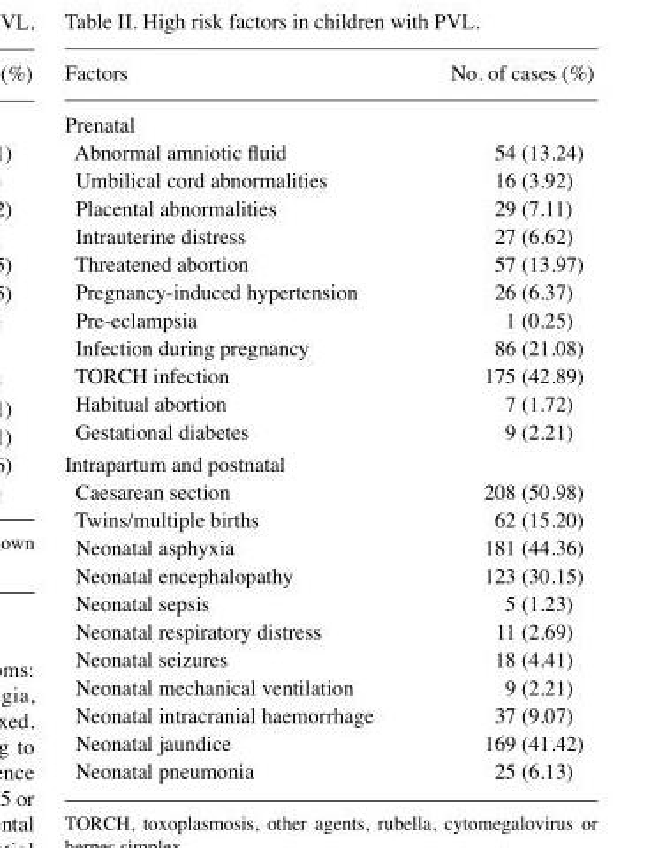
<table><thead><tr><td>Factors</td><td>No. of cases (%)</td></tr></thead><tbody><tr><td colspan="2">Prenatal</td></tr><tr><td>Abnormal amniotic fluid</td><td>54 (13.24)</td></tr><tr><td>Umbilical cord abnormalities</td><td>16 (3.92)</td></tr><tr><td>Placental abnormalities</td><td>29 (7.11)</td></tr><tr><td>Intrauterine distress</td><td>27 (6.62)</td></tr><tr><td>Threatened abortion</td><td>57 (13.97)</td></tr><tr><td>Pregnancy‑induced hypertension</td><td>26 (6.37)</td></tr><tr><td>Pre-eclampsia</td><td>1 (0.25)</td></tr><tr><td>Infection during pregnancy</td><td>86 (21.08)</td></tr><tr><td>TORCH infection</td><td>175 (42.89)</td></tr><tr><td>Habitual abortion</td><td>7 (1.72)</td></tr><tr><td>Gestational diabetes</td><td>9 (2.21)</td></tr><tr><td colspan="2">Intrapartum and postnatal</td></tr><tr><td>Caesarean section</td><td>208 (50.98)</td></tr><tr><td>Twins/multiple births</td><td>62 (15.20)</td></tr><tr><td>Neonatal asphyxia</td><td>181 (44.36)</td></tr><tr><td>Neonatal encephalopathy</td><td>123 (30.15)</td></tr><tr><td>Neonatal sepsis</td><td>5 (1.23)</td></tr><tr><td>Neonatal respiratory distress</td><td>11 (2.69)</td></tr><tr><td>Neonatal seizures</td><td>18 (4.41)</td></tr><tr><td>Neonatal mechanical ventilation</td><td>9 (2.21)</td></tr><tr><td>Neonatal intracranial haemorrhage</td><td>37 (9.07)</td></tr><tr><td>Neonatal jaundice</td><td>169 (41.42)</td></tr><tr><td>Neonatal pneumonia</td><td>25 (6.13)</td></tr></tbody></table>